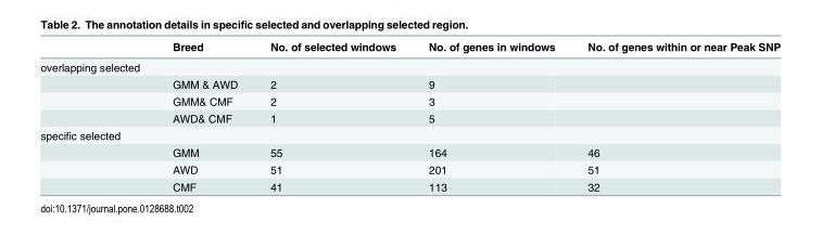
<table><thead><tr><td></td><td>Breed</td><td>No. of selected windows</td><td>No. of genes in windows</td><td>No. of genes within or near Peak SNP</td></tr></thead><tbody><tr><td colspan="5">overlapping selected</td></tr><tr><td></td><td>GMM &amp; AWD</td><td>2</td><td>9</td><td></td></tr><tr><td></td><td>GMM&amp; CMF</td><td>2</td><td>3</td><td></td></tr><tr><td></td><td>AWD&amp; CMF</td><td>1</td><td>5</td><td></td></tr><tr><td colspan="5">specific selected</td></tr><tr><td></td><td>GMM</td><td>55</td><td>164</td><td>46</td></tr><tr><td></td><td>AWD</td><td>51</td><td>201</td><td>51</td></tr><tr><td></td><td>CMF</td><td>41</td><td>113</td><td>32</td></tr></tbody></table>